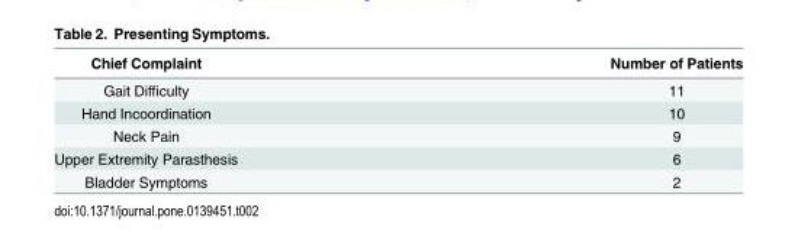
<table><thead><tr><td>Chief Complaint</td><td>Number of Patients</td></tr></thead><tbody><tr><td>Gait Difficulty</td><td>11</td></tr><tr><td>Hand Incoordination</td><td>10</td></tr><tr><td>Neck Pain</td><td>9</td></tr><tr><td>Upper Extremity Parasthesis</td><td>6</td></tr><tr><td>Bladder Symptoms</td><td>2</td></tr></tbody></table>